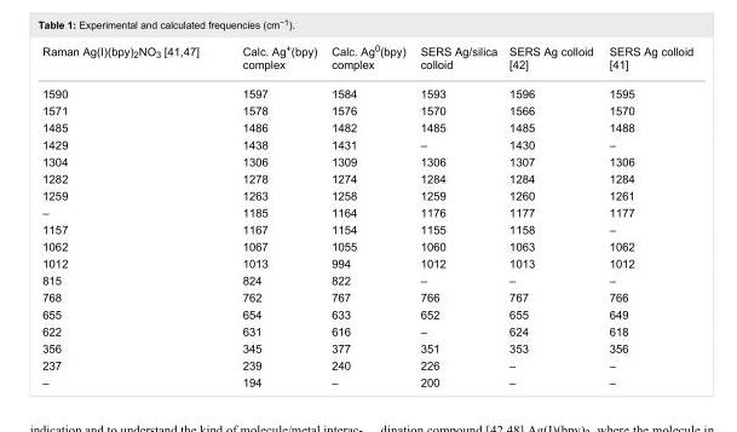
<table><tbody><tr><td>Raman Ag(I)(bpy)<sub>2</sub>NO<sub>3</sub> [41,47]</td><td>Calc. Ag<sup>+</sup>(bpy) complex</td><td>Calc. Ag<sup>0</sup>(bpy) complex</td><td>SERS Ag/silica colloid</td><td>SERS Ag colloid [42]</td><td>SERS Ag colloid [41]</td></tr><tr><td>1590</td><td>1597</td><td>1584</td><td>1593</td><td>1596</td><td>1595</td></tr><tr><td>1571</td><td>1578</td><td>1576</td><td>1570</td><td>1566</td><td>1570</td></tr><tr><td>1485</td><td>1486</td><td>1482</td><td>1485</td><td>1485</td><td>1488</td></tr><tr><td>1429</td><td>1438</td><td>1431</td><td>–</td><td>1430</td><td>–</td></tr><tr><td>1304</td><td>1306</td><td>1309</td><td>1306</td><td>1307</td><td>1306</td></tr><tr><td>1282</td><td>1278</td><td>1274</td><td>1284</td><td>1284</td><td>1284</td></tr><tr><td>1259</td><td>1263</td><td>1258</td><td>1259</td><td>1260</td><td>1261</td></tr><tr><td>–</td><td>1185</td><td>1164</td><td>1176</td><td>1177</td><td>1177</td></tr><tr><td>1157</td><td>1167</td><td>1154</td><td>1155</td><td>1158</td><td>–</td></tr><tr><td>1062</td><td>1067</td><td>1055</td><td>1060</td><td>1063</td><td>1062</td></tr><tr><td>1012</td><td>1013</td><td>994</td><td>1012</td><td>1013</td><td>1012</td></tr><tr><td>815</td><td>824</td><td>822</td><td>–</td><td>–</td><td>–</td></tr><tr><td>768</td><td>762</td><td>767</td><td>766</td><td>767</td><td>766</td></tr><tr><td>655</td><td>654</td><td>633</td><td>652</td><td>655</td><td>649</td></tr><tr><td>622</td><td>631</td><td>616</td><td>–</td><td>624</td><td>618</td></tr><tr><td>356</td><td>345</td><td>377</td><td>351</td><td>353</td><td>356</td></tr><tr><td>237</td><td>239</td><td>240</td><td>226</td><td>–</td><td>–</td></tr><tr><td>–</td><td>194</td><td>–</td><td>200</td><td>–</td><td>–</td></tr></tbody></table>